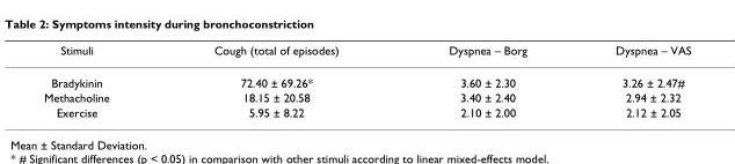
<table><thead><tr><td>Stimuli</td><td>Cough (total of episodes)</td><td>Dyspnea – Borg</td><td>Dyspnea – VAS</td></tr></thead><tbody><tr><td>Bradykinin</td><td>72.40 ± 69.26*</td><td>3.60 ± 2.30</td><td>3.26 ± 2.47#</td></tr><tr><td>Methacholine</td><td>18.15 ± 20.58</td><td>3.40 ± 2.40</td><td>2.94 ± 2.32</td></tr><tr><td>Exercise</td><td>5.95 ± 8.22</td><td>2.10 ± 2.00</td><td>2.12 ± 2.05</td></tr></tbody></table>